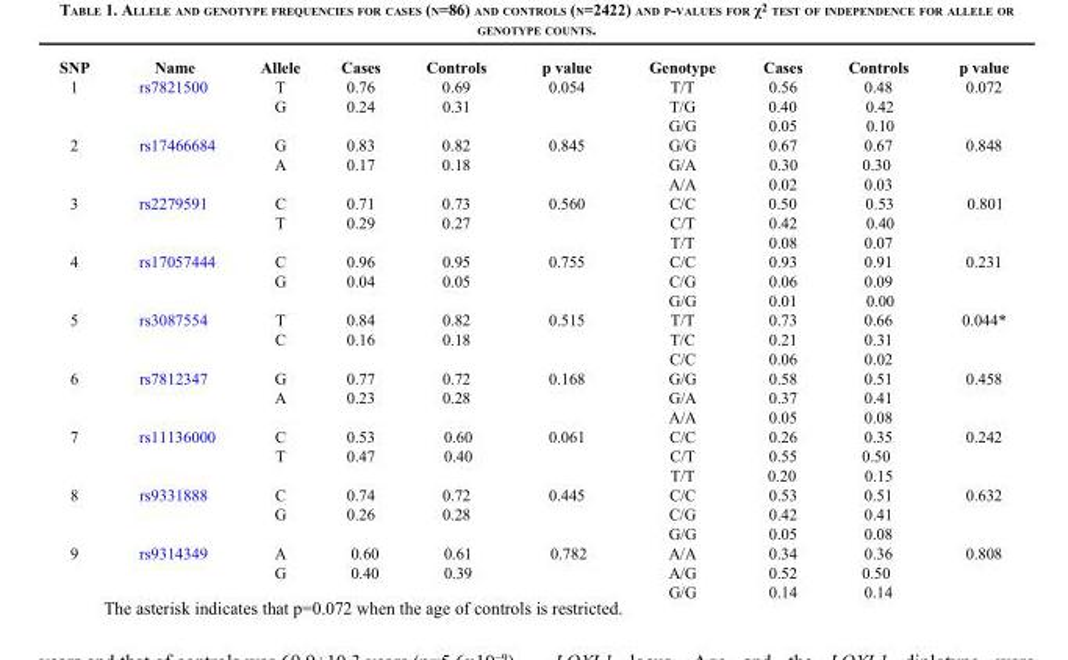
<table><thead><tr><td>SNP</td><td>Name</td><td>Allele</td><td>Cases</td><td>Controls</td><td>p value</td><td>Genotype</td><td>Cases</td><td>Controls</td><td>p value</td></tr></thead><tbody><tr><td rowspan="3">1</td><td>rs7821500</td><td>T</td><td>0.76</td><td>0.69</td><td>0.054</td><td>T/T</td><td>0.56</td><td>0.48</td><td>0.072</td></tr><tr><td></td><td>G</td><td>0.24</td><td>0.31</td><td></td><td>T/G</td><td>0.40</td><td>0.42</td><td></td></tr><tr><td></td><td></td><td></td><td></td><td></td><td>G/G</td><td>0.05</td><td>0.10</td><td></td></tr><tr><td rowspan="3">2</td><td>rs17466684</td><td>G</td><td>0.83</td><td>0.82</td><td>0.845</td><td>G/G</td><td>0.67</td><td>0.67</td><td>0.848</td></tr><tr><td></td><td>A</td><td>0.17</td><td>0.18</td><td></td><td>G/A</td><td>0.30</td><td>0.30</td><td></td></tr><tr><td></td><td></td><td></td><td></td><td></td><td>A/A</td><td>0.02</td><td>0.03</td><td></td></tr><tr><td rowspan="3">3</td><td>rs2279591</td><td>C</td><td>0.71</td><td>0.73</td><td>0.560</td><td>C/C</td><td>0.50</td><td>0.53</td><td>0.801</td></tr><tr><td></td><td>T</td><td>0.29</td><td>0.27</td><td></td><td>C/T</td><td>0.42</td><td>0.40</td><td></td></tr><tr><td></td><td></td><td></td><td></td><td></td><td>T/T</td><td>0.08</td><td>0.07</td><td></td></tr><tr><td rowspan="3">4</td><td>rs17057444</td><td>C</td><td>0.96</td><td>0.95</td><td>0.755</td><td>C/C</td><td>0.93</td><td>0.91</td><td>0.231</td></tr><tr><td></td><td>G</td><td>0.04</td><td>0.05</td><td></td><td>C/G</td><td>0.06</td><td>0.09</td><td></td></tr><tr><td></td><td></td><td></td><td></td><td></td><td>G/G</td><td>0.01</td><td>0.00</td><td></td></tr><tr><td rowspan="3">5</td><td>rs3087554</td><td>T</td><td>0.84</td><td>0.82</td><td>0.515</td><td>T/T</td><td>0.73</td><td>0.66</td><td>0.044*</td></tr><tr><td></td><td>C</td><td>0.16</td><td>0.18</td><td></td><td>T/C</td><td>0.21</td><td>0.31</td><td></td></tr><tr><td></td><td></td><td></td><td></td><td></td><td>C/C</td><td>0.06</td><td>0.02</td><td></td></tr><tr><td rowspan="3">6</td><td>rs7812347</td><td>G</td><td>0.77</td><td>0.72</td><td>0.168</td><td>G/G</td><td>0.58</td><td>0.51</td><td>0.458</td></tr><tr><td></td><td>A</td><td>0.23</td><td>0.28</td><td></td><td>G/A</td><td>0.37</td><td>0.41</td><td></td></tr><tr><td></td><td></td><td></td><td></td><td></td><td>A/A</td><td>0.05</td><td>0.08</td><td></td></tr><tr><td rowspan="3">7</td><td>rs11136000</td><td>C</td><td>0.53</td><td>0.60</td><td>0.061</td><td>C/C</td><td>0.26</td><td>0.35</td><td>0.242</td></tr><tr><td></td><td>T</td><td>0.47</td><td>0.40</td><td></td><td>C/T</td><td>0.55</td><td>0.50</td><td></td></tr><tr><td></td><td></td><td></td><td></td><td></td><td>T/T</td><td>0.20</td><td>0.15</td><td></td></tr><tr><td rowspan="3">8</td><td>rs9331888</td><td>C</td><td>0.74</td><td>0.72</td><td>0.445</td><td>C/C</td><td>0.53</td><td>0.51</td><td>0.632</td></tr><tr><td></td><td>G</td><td>0.26</td><td>0.28</td><td></td><td>C/G</td><td>0.42</td><td>0.41</td><td></td></tr><tr><td></td><td></td><td></td><td></td><td></td><td>G/G</td><td>0.05</td><td>0.08</td><td></td></tr><tr><td rowspan="3">9</td><td>rs9314349</td><td>A</td><td>0.60</td><td>0.61</td><td>0.782</td><td>A/A</td><td>0.34</td><td>0.36</td><td>0.808</td></tr><tr><td></td><td>G</td><td>0.40</td><td>0.39</td><td></td><td>A/G</td><td>0.52</td><td>0.50</td><td></td></tr><tr><td></td><td></td><td></td><td></td><td></td><td>G/G</td><td>0.14</td><td>0.14</td><td></td></tr></tbody></table>